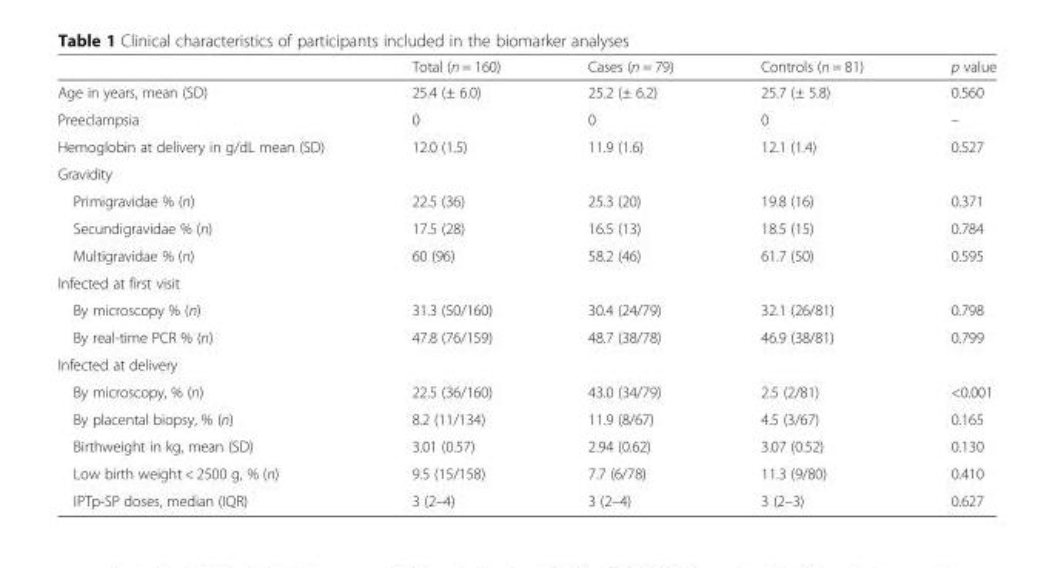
<table><thead><tr><td></td><td>Total (n = 160)</td><td>Cases (n = 79)</td><td>Controls (n = 81)</td><td>p value</td></tr></thead><tbody><tr><td>Age in years, mean (SD)</td><td>25.4 (± 6.0)</td><td>25.2 (± 6.2)</td><td>25.7 (± 5.8)</td><td>0.560</td></tr><tr><td>Preeclampsia</td><td>0</td><td>0</td><td>0</td><td>–</td></tr><tr><td>Hemoglobin at delivery in g/dL mean (SD)</td><td>12.0 (1.5)</td><td>11.9 (1.6)</td><td>12.1 (1.4)</td><td>0.527</td></tr><tr><td colspan="5">Gravidity</td></tr><tr><td>Primigravidae % (n)</td><td>22.5 (36)</td><td>25.3 (20)</td><td>19.8 (16)</td><td>0.371</td></tr><tr><td>Secundigravidae % (n)</td><td>17.5 (28)</td><td>16.5 (13)</td><td>18.5 (15)</td><td>0.784</td></tr><tr><td>Multigravidae % (n)</td><td>60 (96)</td><td>58.2 (46)</td><td>61.7 (50)</td><td>0.595</td></tr><tr><td colspan="5">Infected at first visit</td></tr><tr><td>By microscopy % (n)</td><td>31.3 (50/160)</td><td>30.4 (24/79)</td><td>32.1 (26/81)</td><td>0.798</td></tr><tr><td>By real-time PCR % (n)</td><td>47.8 (76/159)</td><td>48.7 (38/78)</td><td>46.9 (38/81)</td><td>0.799</td></tr><tr><td colspan="5">Infected at delivery</td></tr><tr><td>By microscopy, % (n)</td><td>22.5 (36/160)</td><td>43.0 (34/79)</td><td>2.5 (2/81)</td><td>&lt;0.001</td></tr><tr><td>By placental biopsy, % (n)</td><td>8.2 (11/134)</td><td>11.9 (8/67)</td><td>4.5 (3/67)</td><td>0.165</td></tr><tr><td>Birthweight in kg, mean (SD)</td><td>3.01 (0.57)</td><td>2.94 (0.62)</td><td>3.07 (0.52)</td><td>0.130</td></tr><tr><td>Low birth weight &lt; 2500 g, % (n)</td><td>9.5 (15/158)</td><td>7.7 (6/78)</td><td>11.3 (9/80)</td><td>0.410</td></tr><tr><td>IPTp-SP doses, median (IQR)</td><td>3 (2–4)</td><td>3 (2–4)</td><td>3 (2–3)</td><td>0.627</td></tr></tbody></table>